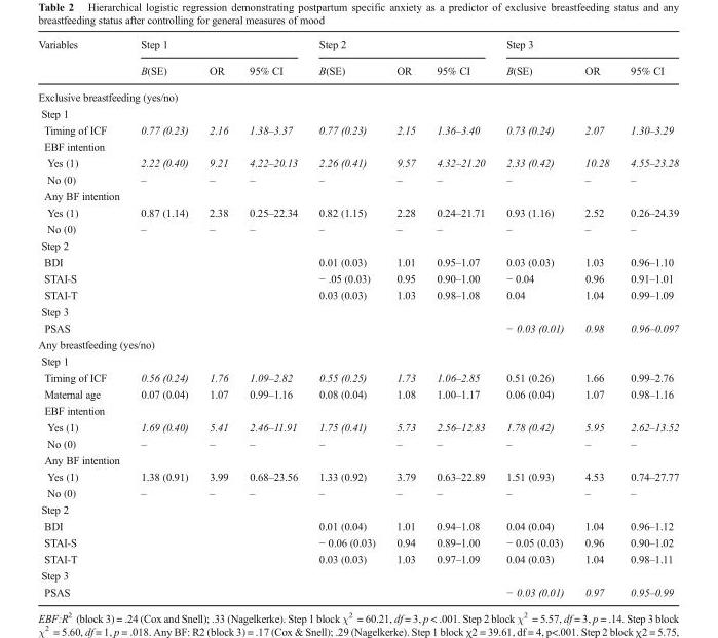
<table><thead><tr><td rowspan="2">Variables</td><td colspan="3">Step 1</td><td colspan="3">Step 2</td><td colspan="3">Step 3</td></tr><tr><td>B(SE)</td><td>OR</td><td>95% CI</td><td>B(SE)</td><td>OR</td><td>95% CI</td><td>B(SE)</td><td>OR</td><td>95% CI</td></tr></thead><tbody><tr><td colspan="10">Exclusive breastfeeding (yes/no)</td></tr><tr><td colspan="10">Step 1</td></tr><tr><td>Timing of ICF</td><td>0.77 (0.23)</td><td>2.16</td><td>1.38–3.37</td><td>0.77 (0.23)</td><td>2.15</td><td>1.36–3.40</td><td>0.73 (0.24)</td><td>2.07</td><td>1.30–3.29</td></tr><tr><td colspan="10">EBF intention</td></tr><tr><td>Yes (1)</td><td>2.22 (0.40)</td><td>9.21</td><td>4.22–20.13</td><td>2.26 (0.41)</td><td>9.57</td><td>4.32–21.20</td><td>2.33 (0.42)</td><td>10.28</td><td>4.55–23.28</td></tr><tr><td>No (0)</td><td>–</td><td>–</td><td>–</td><td>–</td><td>–</td><td>–</td><td>–</td><td>–</td><td>–</td></tr><tr><td colspan="10">Any BF intention</td></tr><tr><td>Yes (1)</td><td>0.87 (1.14)</td><td>2.38</td><td>0.25–22.34</td><td>0.82 (1.15)</td><td>2.28</td><td>0.24–21.71</td><td>0.93 (1.16)</td><td>2.52</td><td>0.26–24.39</td></tr><tr><td>No (0)</td><td>–</td><td>–</td><td>–</td><td>–</td><td>–</td><td>–</td><td>–</td><td>–</td><td>–</td></tr><tr><td colspan="10">Step 2</td></tr><tr><td>BDI</td><td></td><td></td><td></td><td>0.01 (0.03)</td><td>1.01</td><td>0.95–1.07</td><td>0.03 (0.03)</td><td>1.03</td><td>0.96–1.10</td></tr><tr><td>STAI-S</td><td></td><td></td><td></td><td>− .05 (0.03)</td><td>0.95</td><td>0.90–1.00</td><td>− 0.04</td><td>0.96</td><td>0.91–1.01</td></tr><tr><td>STAI-T</td><td></td><td></td><td></td><td>0.03 (0.03)</td><td>1.03</td><td>0.98–1.08</td><td>0.04</td><td>1.04</td><td>0.99–1.09</td></tr><tr><td colspan="10">Step 3</td></tr><tr><td>PSAS</td><td></td><td></td><td></td><td></td><td></td><td></td><td>− 0.03 (0.01)</td><td>0.98</td><td>0.96–0.097</td></tr><tr><td colspan="10">Any breastfeeding (yes/no)</td></tr><tr><td colspan="10">Step 1</td></tr><tr><td>Timing of ICF</td><td>0.56 (0.24)</td><td>1.76</td><td>1.09–2.82</td><td>0.55 (0.25)</td><td>1.73</td><td>1.06–2.85</td><td>0.51 (0.26)</td><td>1.66</td><td>0.99–2.76</td></tr><tr><td>Maternal age</td><td>0.07 (0.04)</td><td>1.07</td><td>0.99–1.16</td><td>0.08 (0.04)</td><td>1.08</td><td>1.00–1.17</td><td>0.06 (0.04)</td><td>1.07</td><td>0.98–1.16</td></tr><tr><td colspan="10">EBF intention</td></tr><tr><td>Yes (1)</td><td>1.69 (0.40)</td><td>5.41</td><td>2.46–11.91</td><td>1.75 (0.41)</td><td>5.73</td><td>2.56–12.83</td><td>1.78 (0.42)</td><td>5.95</td><td>2.62–13.52</td></tr><tr><td>No (0)</td><td>–</td><td>–</td><td>–</td><td>–</td><td>–</td><td>–</td><td>–</td><td>–</td><td>–</td></tr><tr><td colspan="10">Any BF intention</td></tr><tr><td>Yes (1)</td><td>1.38 (0.91)</td><td>3.99</td><td>0.68–23.56</td><td>1.33 (0.92)</td><td>3.79</td><td>0.63–22.89</td><td>1.51 (0.93)</td><td>4.53</td><td>0.74–27.77</td></tr><tr><td>No (0)</td><td>–</td><td>–</td><td>–</td><td>–</td><td>–</td><td>–</td><td>–</td><td>–</td><td>–</td></tr><tr><td colspan="10">Step 2</td></tr><tr><td>BDI</td><td></td><td></td><td></td><td>0.01 (0.04)</td><td>1.01</td><td>0.94–1.08</td><td>0.04 (0.04)</td><td>1.04</td><td>0.96–1.12</td></tr><tr><td>STAI-S</td><td></td><td></td><td></td><td>− 0.06 (0.03)</td><td>0.94</td><td>0.89–1.00</td><td>− 0.05 (0.03)</td><td>0.96</td><td>0.90–1.02</td></tr><tr><td>STAI-T</td><td></td><td></td><td></td><td>0.03 (0.03)</td><td>1.03</td><td>0.97–1.09</td><td>0.04 (0.03)</td><td>1.04</td><td>0.98–1.11</td></tr><tr><td colspan="10">Step 3</td></tr><tr><td>PSAS</td><td></td><td></td><td></td><td></td><td></td><td></td><td>− 0.03 (0.01)</td><td>0.97</td><td>0.95–0.99</td></tr></tbody></table>